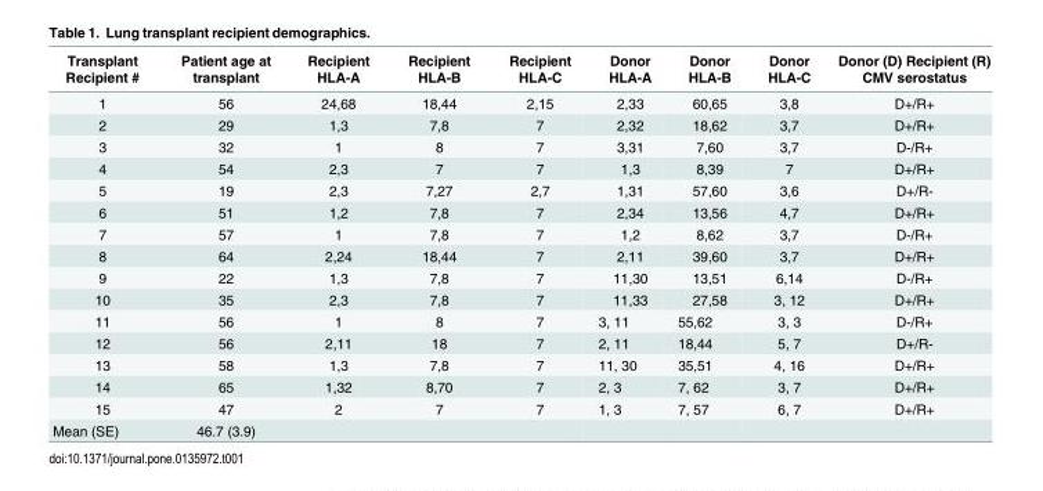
<table><thead><tr><td>Transplant Recipient #</td><td>Patient age at transplant</td><td>Recipient HLA-A</td><td>Recipient HLA-B</td><td>Recipient HLA-C</td><td>Donor HLA-A</td><td>Donor HLA-B</td><td>Donor HLA-C</td><td>Donor (D) Recipient (R) CMV serostatus</td></tr></thead><tbody><tr><td>1</td><td>56</td><td>24,68</td><td>18,44</td><td>2,15</td><td>2,33</td><td>60,65</td><td>3,8</td><td>D+/R+</td></tr><tr><td>2</td><td>29</td><td>1,3</td><td>7,8</td><td>7</td><td>2,32</td><td>18,62</td><td>3,7</td><td>D+/R+</td></tr><tr><td>3</td><td>32</td><td>1</td><td>8</td><td>7</td><td>3,31</td><td>7,60</td><td>3,7</td><td>D-/R+</td></tr><tr><td>4</td><td>54</td><td>2,3</td><td>7</td><td>7</td><td>1,3</td><td>8,39</td><td>7</td><td>D+/R+</td></tr><tr><td>5</td><td>19</td><td>2,3</td><td>7,27</td><td>2,7</td><td>1,31</td><td>57,60</td><td>3,6</td><td>D+/R-</td></tr><tr><td>6</td><td>51</td><td>1,2</td><td>7,8</td><td>7</td><td>2,34</td><td>13,56</td><td>4,7</td><td>D+/R+</td></tr><tr><td>7</td><td>57</td><td>1</td><td>7,8</td><td>7</td><td>1,2</td><td>8,62</td><td>3,7</td><td>D-/R+</td></tr><tr><td>8</td><td>64</td><td>2,24</td><td>18,44</td><td>7</td><td>2,11</td><td>39,60</td><td>3,7</td><td>D+/R+</td></tr><tr><td>9</td><td>22</td><td>1,3</td><td>7,8</td><td>7</td><td>11,30</td><td>13,51</td><td>6,14</td><td>D-/R+</td></tr><tr><td>10</td><td>35</td><td>2,3</td><td>7,8</td><td>7</td><td>11,33</td><td>27,58</td><td>3, 12</td><td>D+/R+</td></tr><tr><td>11</td><td>56</td><td>1</td><td>8</td><td>7</td><td>3, 11</td><td>55,62</td><td>3, 3</td><td>D-/R+</td></tr><tr><td>12</td><td>56</td><td>2,11</td><td>18</td><td>7</td><td>2, 11</td><td>18,44</td><td>5, 7</td><td>D+/R-</td></tr><tr><td>13</td><td>58</td><td>1,3</td><td>7,8</td><td>7</td><td>11, 30</td><td>35,51</td><td>4, 16</td><td>D+/R+</td></tr><tr><td>14</td><td>65</td><td>1,32</td><td>8,70</td><td>7</td><td>2, 3</td><td>7, 62</td><td>3, 7</td><td>D+/R+</td></tr><tr><td>15</td><td>47</td><td>2</td><td>7</td><td>7</td><td>1, 3</td><td>7, 57</td><td>6, 7</td><td>D+/R+</td></tr><tr><td>Mean (SE)</td><td>46.7 (3.9)</td><td></td><td></td><td></td><td></td><td></td><td></td><td></td></tr></tbody></table>